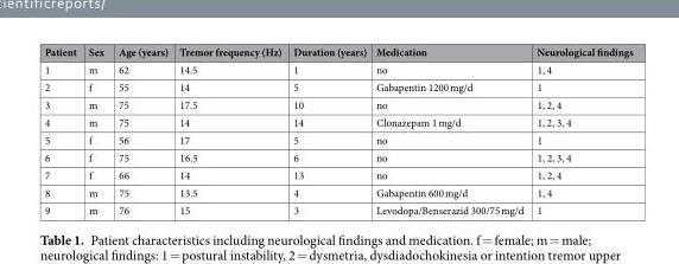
<table><thead><tr><td>Patient</td><td>Sex</td><td>Age (years)</td><td>Tremor frequency (Hz)</td><td>Duration (years)</td><td>Medication</td><td>Neurological findings</td></tr></thead><tbody><tr><td>1</td><td>m</td><td>62</td><td>14.5</td><td>1</td><td>no</td><td>1, 4</td></tr><tr><td>2</td><td>f</td><td>55</td><td>14</td><td>5</td><td>Gabapentin 1200 mg/d</td><td>1</td></tr><tr><td>3</td><td>m</td><td>75</td><td>17.5</td><td>10</td><td>no</td><td>1, 2, 4</td></tr><tr><td>4</td><td>m</td><td>75</td><td>14</td><td>14</td><td>Clonazepam 1 mg/d</td><td>1, 2, 3, 4</td></tr><tr><td>5</td><td>f</td><td>56</td><td>17</td><td>5</td><td>no</td><td>1</td></tr><tr><td>6</td><td>f</td><td>75</td><td>16.5</td><td>6</td><td>no</td><td>1, 2, 3, 4</td></tr><tr><td>7</td><td>f</td><td>66</td><td>14</td><td>13</td><td>no</td><td>1, 2, 4</td></tr><tr><td>8</td><td>m</td><td>75</td><td>13.5</td><td>4</td><td>Gabapentin 600 mg/d</td><td>1, 4</td></tr><tr><td>9</td><td>m</td><td>76</td><td>15</td><td>3</td><td>Levodopa/Benserazid 300/75 mg/d</td><td>1</td></tr></tbody></table>